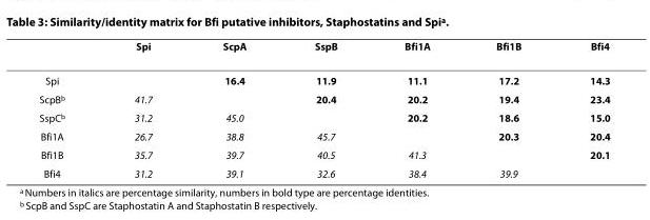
<table><thead><tr><td></td><td>Spi</td><td>ScpA</td><td>SspB</td><td>Bfi1A</td><td>Bfi1B</td><td>Bfi4</td></tr></thead><tbody><tr><td>Spi</td><td></td><td>16.4</td><td>11.9</td><td>11.1</td><td>17.2</td><td>14.3</td></tr><tr><td>ScpB<sup>b</sup></td><td>41.7</td><td></td><td>20.4</td><td>20.2</td><td>19.4</td><td>23.4</td></tr><tr><td>SspC<sup>b</sup></td><td>31.2</td><td>45.0</td><td></td><td>20.2</td><td>18.6</td><td>15.0</td></tr><tr><td>Bfi1A</td><td>26.7</td><td>38.8</td><td>45.7</td><td></td><td>20.3</td><td>20.4</td></tr><tr><td>Bfi1B</td><td>35.7</td><td>39.7</td><td>40.5</td><td>41.3</td><td></td><td>20.1</td></tr><tr><td>Bfi4</td><td>31.2</td><td>39.1</td><td>32.6</td><td>38.4</td><td>39.9</td><td></td></tr></tbody></table>